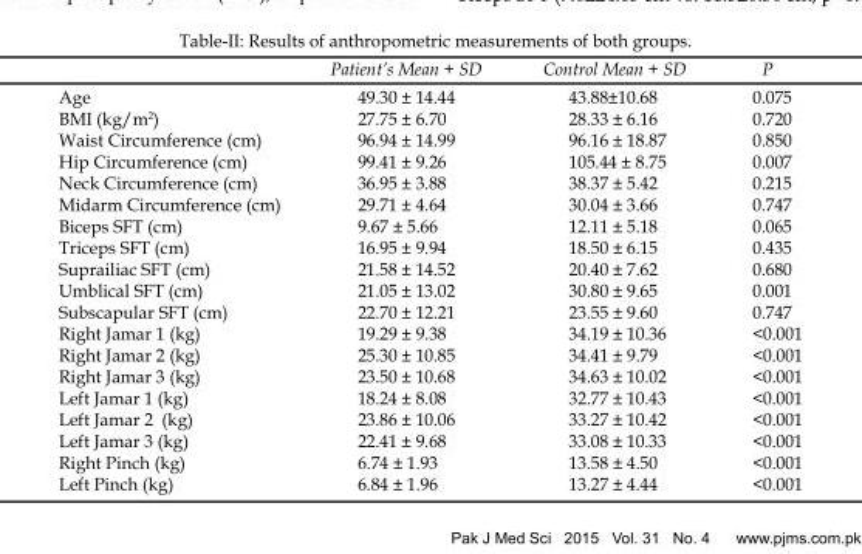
<table><thead><tr><td></td><td>Patient’s Mean + SD</td><td>Control Mean + SD</td><td>P</td></tr></thead><tbody><tr><td>Age</td><td>49.30 ± 14.44</td><td>43.88±10.68</td><td>0.075</td></tr><tr><td>BMI (kg/m<sup>2</sup>)</td><td>27.75 ± 6.70</td><td>28.33 ± 6.16</td><td>0.720</td></tr><tr><td>Waist Circumference (cm)</td><td>96.94 ± 14.99</td><td>96.16 ± 18.87</td><td>0.850</td></tr><tr><td>Hip Circumference (cm)</td><td>99.41 ± 9.26</td><td>105.44 ± 8.75</td><td>0.007</td></tr><tr><td>Neck Circumference (cm)</td><td>36.95 ± 3.88</td><td>38.37 ± 5.42</td><td>0.215</td></tr><tr><td>Midarm Circumference (cm)</td><td>29.71 ± 4.64</td><td>30.04 ± 3.66</td><td>0.747</td></tr><tr><td>Biceps SFT (cm)</td><td>9.67 ± 5.66</td><td>12.11 ± 5.18</td><td>0.065</td></tr><tr><td>Triceps SFT (cm)</td><td>16.95 ± 9.94</td><td>18.50 ± 6.15</td><td>0.435</td></tr><tr><td>Suprailiac SFT (cm)</td><td>21.58 ± 14.52</td><td>20.40 ± 7.62</td><td>0.680</td></tr><tr><td>Umblical SFT (cm)</td><td>21.05 ± 13.02</td><td>30.80 ± 9.65</td><td>0.001</td></tr><tr><td>Subscapular SFT (cm)</td><td>22.70 ± 12.21</td><td>23.55 ± 9.60</td><td>0.747</td></tr><tr><td>Right Jamar 1 (kg)</td><td>19.29 ± 9.38</td><td>34.19 ± 10.36</td><td>&lt;0.001</td></tr><tr><td>Right Jamar 2 (kg)</td><td>25.30 ± 10.85</td><td>34.41 ± 9.79</td><td>&lt;0.001</td></tr><tr><td>Right Jamar 3 (kg)</td><td>23.50 ± 10.68</td><td>34.63 ± 10.02</td><td>&lt;0.001</td></tr><tr><td>Left Jamar 1 (kg)</td><td>18.24 ± 8.08</td><td>32.77 ± 10.43</td><td>&lt;0.001</td></tr><tr><td>Left Jamar 2 (kg)</td><td>23.86 ± 10.06</td><td>33.27 ± 10.42</td><td>&lt;0.001</td></tr><tr><td>Left Jamar 3 (kg)</td><td>22.41 ± 9.68</td><td>33.08 ± 10.33</td><td>&lt;0.001</td></tr><tr><td>Right Pinch (kg)</td><td>6.74 ± 1.93</td><td>13.58 ± 4.50</td><td>&lt;0.001</td></tr><tr><td>Left Pinch (kg)</td><td>6.84 ± 1.96</td><td>13.27 ± 4.44</td><td>&lt;0.001</td></tr></tbody></table>